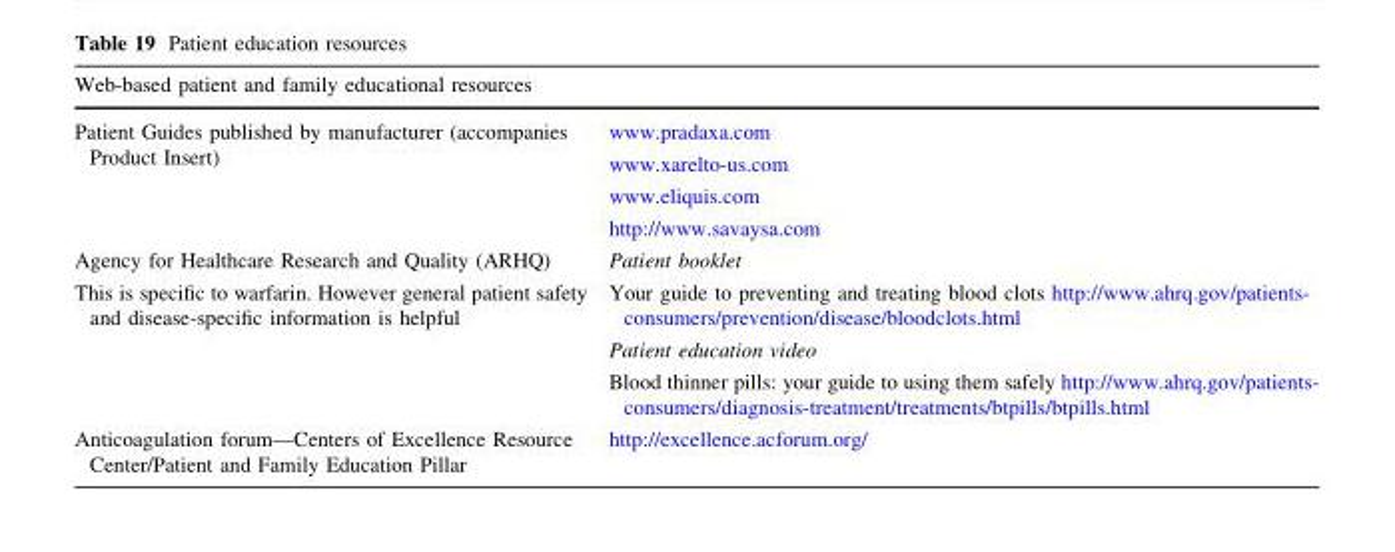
<table><thead><tr><td colspan="2">Web-based patient and family educational resources</td></tr><tr><td>Patient Guides published by manufacturer (accompanies Product Insert)</td><td>www.pradaxa.com www.xarelto-us.com www.eliquis.com http://www.savaysa.com</td></tr></thead><tbody><tr><td>Agency for Healthcare Research and Quality (ARHQ) This is specific to warfarin. However general patient safety and disease-specific information is helpful</td><td>Patient booklet Your guide to preventing and treating blood clots http://www.ahrq.gov/patients- consumers/prevention/disease/bloodclots.html Patient education video Blood thinner pills: your guide to using them safely http://www.ahrq.gov/patients- consumers/diagnosis-treatment/treatments/btpills/btpills.html</td></tr><tr><td>Anticoagulation forum—Centers of Excellence Resource Center/Patient and Family Education Pillar</td><td>http://excellence.acforum.org/</td></tr></tbody></table>